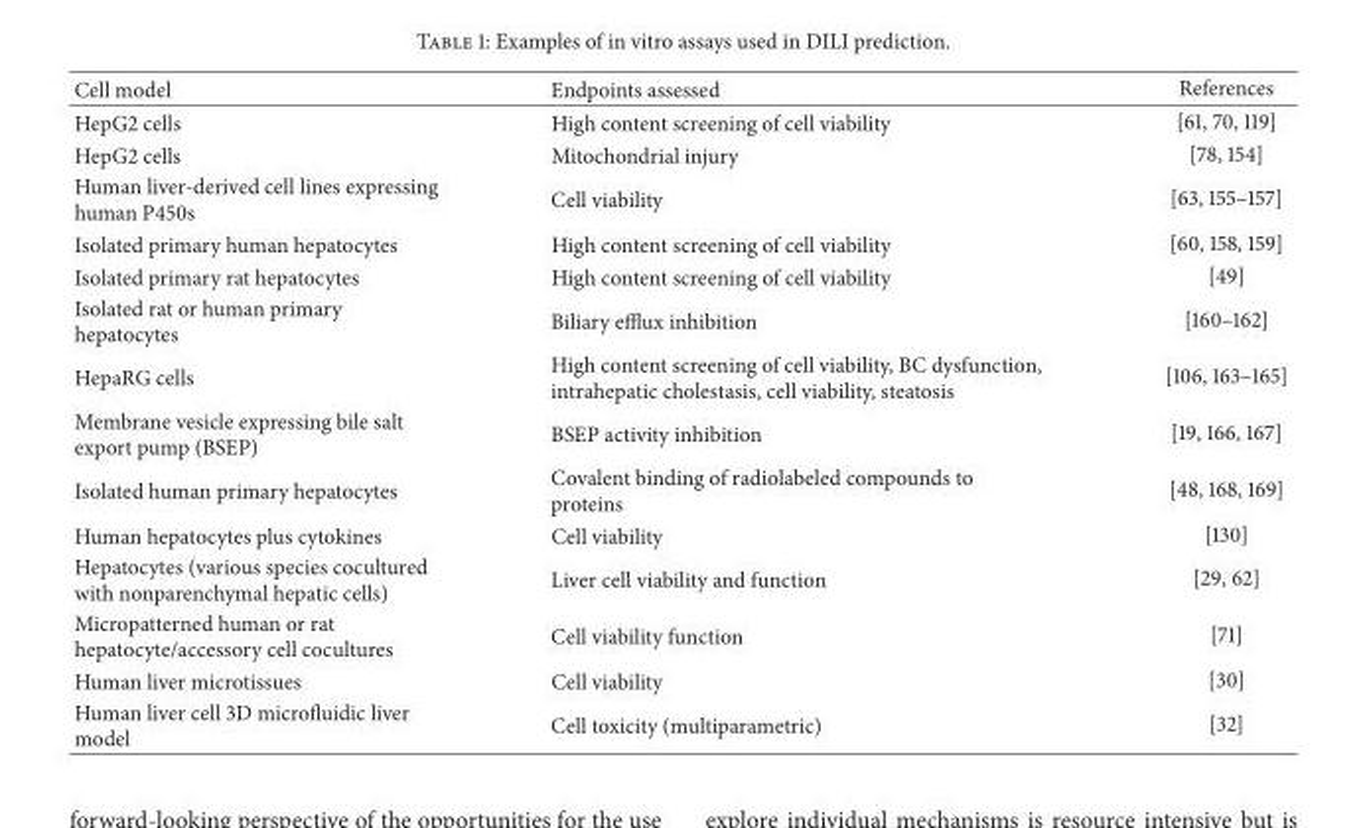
<table><thead><tr><td>Cell model</td><td>Endpoints assessed</td><td>References</td></tr></thead><tbody><tr><td>HepG2 cells</td><td>High content screening of cell viability</td><td>[61, 70, 119]</td></tr><tr><td>HepG2 cells</td><td>Mitochondrial injury</td><td>[78, 154]</td></tr><tr><td>Human liver-derived cell lines expressing human P450s</td><td>Cell viability</td><td>[63, 155–157]</td></tr><tr><td>Isolated primary human hepatocytes</td><td>High content screening of cell viability</td><td>[60, 158, 159]</td></tr><tr><td>Isolated primary rat hepatocytes</td><td>High content screening of cell viability</td><td>[49]</td></tr><tr><td>Isolated rat or human primary hepatocytes</td><td>Biliary efflux inhibition</td><td>[160–162]</td></tr><tr><td>HepaRG cells</td><td>High content screening of cell viability, BC dysfunction, intrahepatic cholestasis, cell viability, steatosis</td><td>[106, 163–165]</td></tr><tr><td>Membrane vesicle expressing bile salt export pump (BSEP)</td><td>BSEP activity inhibition</td><td>[19, 166, 167]</td></tr><tr><td>Isolated human primary hepatocytes</td><td>Covalent binding of radiolabeled compounds to proteins</td><td>[48, 168, 169]</td></tr><tr><td>Human hepatocytes plus cytokines</td><td>Cell viability</td><td>[130]</td></tr><tr><td>Hepatocytes (various species cocultured with nonparenchymal hepatic cells)</td><td>Liver cell viability and function</td><td>[29, 62]</td></tr><tr><td>Micropatterned human or rat hepatocyte/accessory cell cocultures</td><td>Cell viability function</td><td>[71]</td></tr><tr><td>Human liver microtissues</td><td>Cell viability</td><td>[30]</td></tr><tr><td>Human liver cell 3D microfluidic liver model</td><td>Cell toxicity (multiparametric)</td><td>[32]</td></tr></tbody></table>